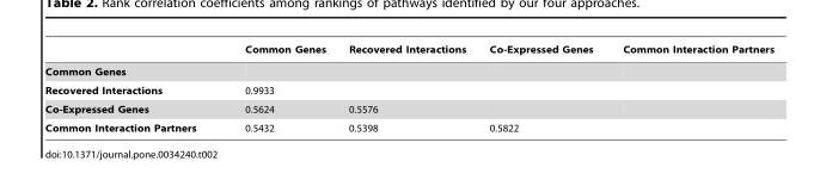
<table><thead><tr><td></td><td>Common Genes</td><td>Recovered Interactions</td><td>Co-Expressed Genes</td><td>Common Interaction Partners</td></tr></thead><tbody><tr><td colspan="5">Common Genes</td></tr><tr><td>Recovered Interactions</td><td>0.9933</td><td></td><td></td><td></td></tr><tr><td>Co-Expressed Genes</td><td>0.5624</td><td>0.5576</td><td></td><td></td></tr><tr><td>Common Interaction Partners</td><td>0.5432</td><td>0.5398</td><td>0.5822</td><td></td></tr></tbody></table>